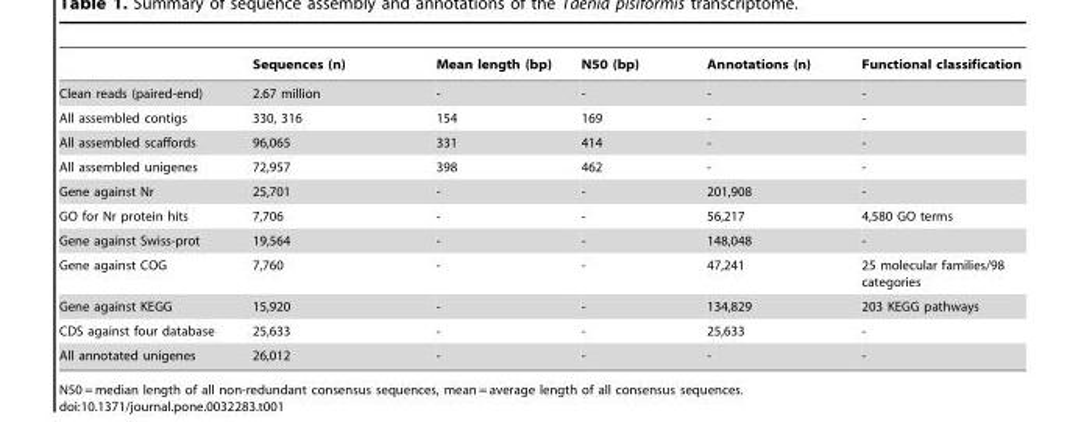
<table><thead><tr><td></td><td>Sequences (n)</td><td>Mean length (bp)</td><td>N50 (bp)</td><td>Annotations (n)</td><td>Functional classification</td></tr></thead><tbody><tr><td>Clean reads (paired-end)</td><td>2.67 million</td><td>-</td><td>-</td><td>-</td><td>-</td></tr><tr><td>All assembled contigs</td><td>330, 316</td><td>154</td><td>169</td><td>-</td><td>-</td></tr><tr><td>All assembled scaffords</td><td>96,065</td><td>331</td><td>414</td><td>-</td><td>-</td></tr><tr><td>All assembled unigenes</td><td>72,957</td><td>398</td><td>462</td><td>-</td><td>-</td></tr><tr><td>Gene against Nr</td><td>25,701</td><td>-</td><td>-</td><td>201,908</td><td>-</td></tr><tr><td>GO for Nr protein hits</td><td>7,706</td><td>-</td><td>-</td><td>56,217</td><td>4,580 GO terms</td></tr><tr><td>Gene against Swiss-prot</td><td>19,564</td><td>-</td><td>-</td><td>148,048</td><td>-</td></tr><tr><td>Gene against COG</td><td>7,760</td><td>-</td><td>-</td><td>47,241</td><td>25 molecular families/98 categories</td></tr><tr><td>Gene against KEGG</td><td>15,920</td><td>-</td><td>-</td><td>134,829</td><td>203 KEGG pathways</td></tr><tr><td>CDS against four database</td><td>25,633</td><td>-</td><td>-</td><td>25,633</td><td>-</td></tr><tr><td>All annotated unigenes</td><td>26,012</td><td>-</td><td>-</td><td>-</td><td>-</td></tr></tbody></table>